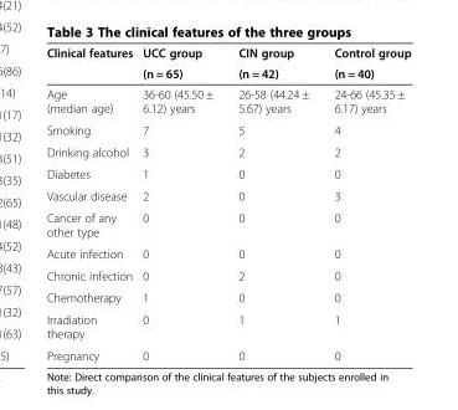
<table><thead><tr><td rowspan="2">Clinical features</td><td rowspan="2">UCC group (n = 65)</td><td rowspan="2">CIN group (n = 42)</td><td rowspan="2">Control group (n = 40)</td></tr><tr></tr></thead><tbody><tr><td>Age (median age)</td><td>36-60 (45.50 ± 6.12) years</td><td>26-58 (44.24 ± 5.67) years</td><td>24-66 (45.35 ± 6.17) years</td></tr><tr><td>Smoking</td><td>7</td><td>5</td><td>4</td></tr><tr><td>Drinking alcohol</td><td>3</td><td>2</td><td>2</td></tr><tr><td>Diabetes</td><td>1</td><td>0</td><td>0</td></tr><tr><td>Vascular disease</td><td>2</td><td>0</td><td>3</td></tr><tr><td>Cancer of any other type</td><td>0</td><td>0</td><td>0</td></tr><tr><td>Acute infection</td><td>0</td><td>0</td><td>0</td></tr><tr><td>Chronic infection</td><td>0</td><td>2</td><td>0</td></tr><tr><td>Chemotherapy</td><td>1</td><td>0</td><td>0</td></tr><tr><td>Irradiation therapy</td><td>0</td><td>1</td><td>1</td></tr><tr><td>Pregnancy</td><td>0</td><td>0</td><td>0</td></tr></tbody></table>